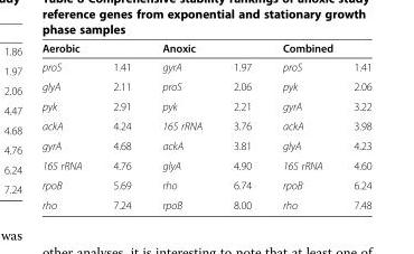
<table><thead><tr><td colspan="2">Aerobic</td><td colspan="2">Anoxic</td><td colspan="2">Combined</td></tr><tr><td>proS</td><td>1.41</td><td>gyrA</td><td>1.97</td><td>proS</td><td>1.41</td></tr></thead><tbody><tr><td>glyA</td><td>2.11</td><td>proS</td><td>2.06</td><td>pyk</td><td>2.06</td></tr><tr><td>pyk</td><td>2.91</td><td>pyk</td><td>2.21</td><td>gyrA</td><td>3.22</td></tr><tr><td>ackA</td><td>4.24</td><td>16S rRNA</td><td>3.76</td><td>ackA</td><td>3.98</td></tr><tr><td>gyrA</td><td>4.68</td><td>ackA</td><td>3.81</td><td>glyA</td><td>4.23</td></tr><tr><td>16S rRNA</td><td>4.76</td><td>glyA</td><td>4.90</td><td>16S rRNA</td><td>4.60</td></tr><tr><td>rpoB</td><td>5.69</td><td>rho</td><td>6.74</td><td>rpoB</td><td>6.24</td></tr><tr><td>rho</td><td>7.24</td><td>rpoB</td><td>8.00</td><td>rho</td><td>7.48</td></tr></tbody></table>